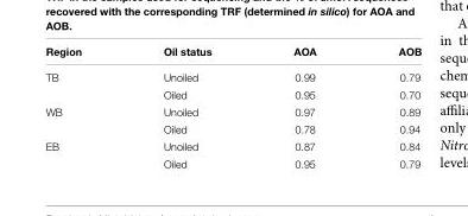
<table><thead><tr><td>Region</td><td>Oil status</td><td>AOA</td><td>AOB</td></tr></thead><tbody><tr><td rowspan="2">TB</td><td>Unoiled</td><td>0.99</td><td>0.79</td></tr><tr><td>Oiled</td><td>0.95</td><td>0.70</td></tr><tr><td rowspan="2">WB</td><td>Unoiled</td><td>0.97</td><td>0.89</td></tr><tr><td>Oiled</td><td>0.78</td><td>0.94</td></tr><tr><td rowspan="2">EB</td><td>Unoiled</td><td>0.87</td><td>0.84</td></tr><tr><td>Oiled</td><td>0.95</td><td>0.79</td></tr></tbody></table>